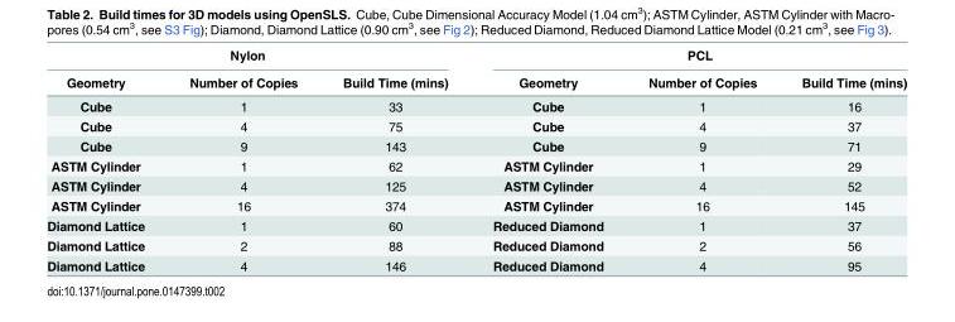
<table><thead><tr><td colspan="3">Nylon</td><td colspan="3">PCL</td></tr><tr><td>Geometry</td><td>Number of Copies</td><td>Build Time (mins)</td><td>Geometry</td><td>Number of Copies</td><td>Build Time (mins)</td></tr></thead><tbody><tr><td>Cube</td><td>1</td><td>33</td><td>Cube</td><td>1</td><td>16</td></tr><tr><td>Cube</td><td>4</td><td>75</td><td>Cube</td><td>4</td><td>37</td></tr><tr><td>Cube</td><td>9</td><td>143</td><td>Cube</td><td>9</td><td>71</td></tr><tr><td>ASTM Cylinder</td><td>1</td><td>62</td><td>ASTM Cylinder</td><td>1</td><td>29</td></tr><tr><td>ASTM Cylinder</td><td>4</td><td>125</td><td>ASTM Cylinder</td><td>4</td><td>52</td></tr><tr><td>ASTM Cylinder</td><td>16</td><td>374</td><td>ASTM Cylinder</td><td>16</td><td>145</td></tr><tr><td>Diamond Lattice</td><td>1</td><td>60</td><td>Reduced Diamond</td><td>1</td><td>37</td></tr><tr><td>Diamond Lattice</td><td>2</td><td>88</td><td>Reduced Diamond</td><td>2</td><td>56</td></tr><tr><td>Diamond Lattice</td><td>4</td><td>146</td><td>Reduced Diamond</td><td>4</td><td>95</td></tr></tbody></table>